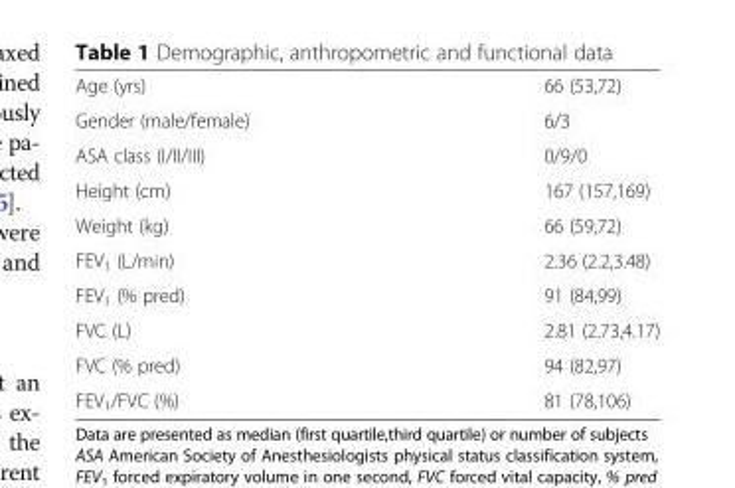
<table><tbody><tr><td>Age (yrs)</td><td>66 (53,72)</td></tr><tr><td>Gender (male/female)</td><td>6/3</td></tr><tr><td>ASA class (I/II/III)</td><td>0/9/0</td></tr><tr><td>Height (cm)</td><td>167 (157,169)</td></tr><tr><td>Weight (kg)</td><td>66 (59,72)</td></tr><tr><td>FEV<sub>1</sub> (L/min)</td><td>2.36 (2.2,3.48)</td></tr><tr><td>FEV<sub>1</sub> (% pred)</td><td>91 (84,99)</td></tr><tr><td>FVC (L)</td><td>2.81 (2.73,4.17)</td></tr><tr><td>FVC (% pred)</td><td>94 (82,97)</td></tr><tr><td>FEV<sub>1</sub>/FVC (%)</td><td>81 (78,106)</td></tr></tbody></table>